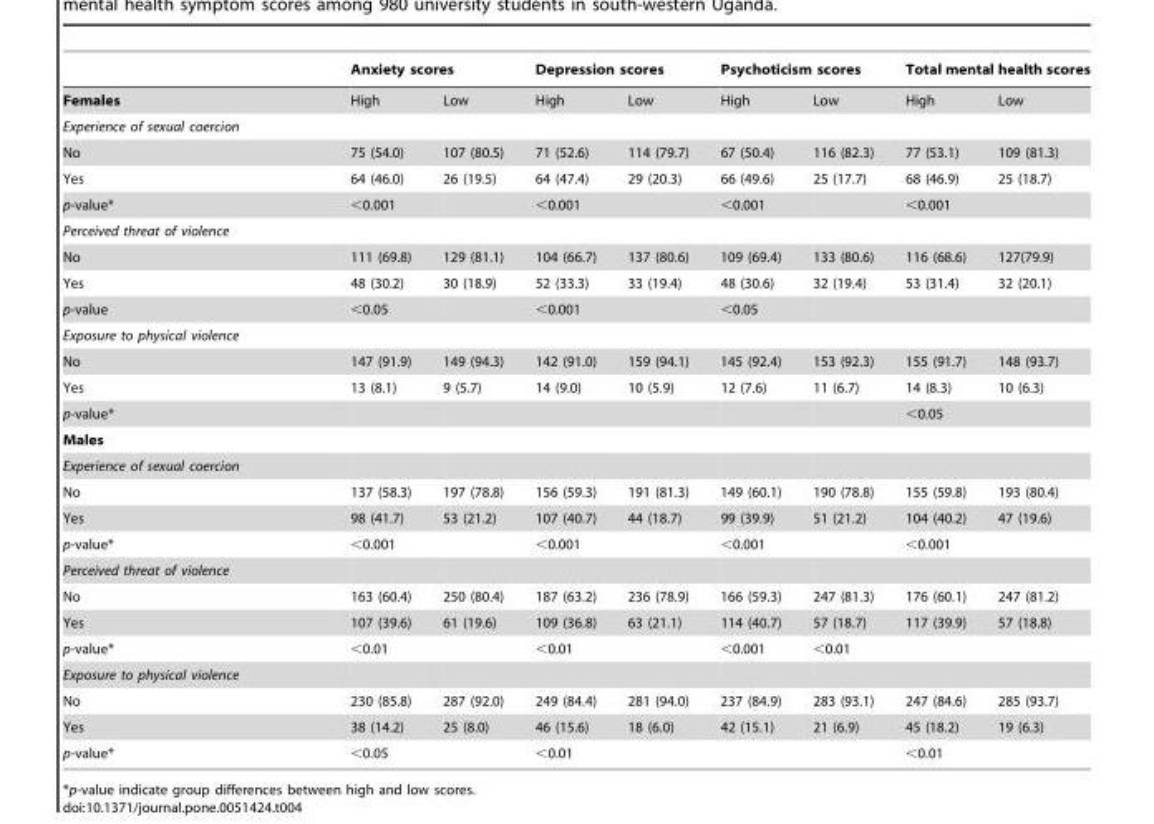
<table><thead><tr><td rowspan="2">Females</td><td colspan="2">Anxiety scores</td><td colspan="2">Depression scores</td><td colspan="2">Psychoticism scores</td><td colspan="2">Total mental health scores</td></tr><tr><td>High</td><td>Low</td><td>High</td><td>Low</td><td>High</td><td>Low</td><td>High</td><td>Low</td></tr></thead><tbody><tr><td colspan="9">Experience of sexual coercion</td></tr><tr><td>No</td><td>75 (54.0)</td><td>107 (80.5)</td><td>71 (52.6)</td><td>114 (79.7)</td><td>67 (50.4)</td><td>116 (82.3)</td><td>77 (53.1)</td><td>109 (81.3)</td></tr><tr><td>Yes</td><td>64 (46.0)</td><td>26 (19.5)</td><td>64 (47.4)</td><td>29 (20.3)</td><td>66 (49.6)</td><td>25 (17.7)</td><td>68 (46.9)</td><td>25 (18.7)</td></tr><tr><td>p-value*</td><td>&lt;0.001</td><td></td><td>&lt;0.001</td><td></td><td>&lt;0.001</td><td></td><td>&lt;0.001</td><td></td></tr><tr><td colspan="9">Perceived threat of violence</td></tr><tr><td>No</td><td>111 (69.8)</td><td>129 (81.1)</td><td>104 (66.7)</td><td>137 (80.6)</td><td>109 (69.4)</td><td>133 (80.6)</td><td>116 (68.6)</td><td>127(79.9)</td></tr><tr><td>Yes</td><td>48 (30.2)</td><td>30 (18.9)</td><td>52 (33.3)</td><td>33 (19.4)</td><td>48 (30.6)</td><td>32 (19.4)</td><td>53 (31.4)</td><td>32 (20.1)</td></tr><tr><td>p-value</td><td>&lt;0.05</td><td></td><td>&lt;0.001</td><td></td><td>&lt;0.05</td><td></td><td></td><td></td></tr><tr><td colspan="9">Exposure to physical violence</td></tr><tr><td>No</td><td>147 (91.9)</td><td>149 (94.3)</td><td>142 (91.0)</td><td>159 (94.1)</td><td>145 (92.4)</td><td>153 (92.3)</td><td>155 (91.7)</td><td>148 (93.7)</td></tr><tr><td>Yes</td><td>13 (8.1)</td><td>9 (5.7)</td><td>14 (9.0)</td><td>10 (5.9)</td><td>12 (7.6)</td><td>11 (6.7)</td><td>14 (8.3)</td><td>10 (6.3)</td></tr><tr><td>p-value*</td><td></td><td></td><td></td><td></td><td></td><td></td><td>&lt;0.05</td><td></td></tr><tr><td colspan="9">Males</td></tr><tr><td colspan="9">Experience of sexual coercion</td></tr><tr><td>No</td><td>137 (58.3)</td><td>197 (78.8)</td><td>156 (59.3)</td><td>191 (81.3)</td><td>149 (60.1)</td><td>190 (78.8)</td><td>155 (59.8)</td><td>193 (80.4)</td></tr><tr><td>Yes</td><td>98 (41.7)</td><td>53 (21.2)</td><td>107 (40.7)</td><td>44 (18.7)</td><td>99 (39.9)</td><td>51 (21.2)</td><td>104 (40.2)</td><td>47 (19.6)</td></tr><tr><td>p-value*</td><td>&lt;0.001</td><td></td><td>&lt;0.001</td><td></td><td>&lt;0.001</td><td></td><td>&lt;0.001</td><td></td></tr><tr><td colspan="9">Perceived threat of violence</td></tr><tr><td>No</td><td>163 (60.4)</td><td>250 (80.4)</td><td>187 (63.2)</td><td>236 (78.9)</td><td>166 (59.3)</td><td>247 (81.3)</td><td>176 (60.1)</td><td>247 (81.2)</td></tr><tr><td>Yes</td><td>107 (39.6)</td><td>61 (19.6)</td><td>109 (36.8)</td><td>63 (21.1)</td><td>114 (40.7)</td><td>57 (18.7)</td><td>117 (39.9)</td><td>57 (18.8)</td></tr><tr><td>p-value*</td><td>&lt;0.01</td><td></td><td>&lt;0.01</td><td></td><td>&lt;0.001</td><td>&lt;0.01</td><td></td><td></td></tr><tr><td colspan="9">Exposure to physical violence</td></tr><tr><td>No</td><td>230 (85.8)</td><td>287 (92.0)</td><td>249 (84.4)</td><td>281 (94.0)</td><td>237 (84.9)</td><td>283 (93.1)</td><td>247 (84.6)</td><td>285 (93.7)</td></tr><tr><td>Yes</td><td>38 (14.2)</td><td>25 (8.0)</td><td>46 (15.6)</td><td>18 (6.0)</td><td>42 (15.1)</td><td>21 (6.9)</td><td>45 (18.2)</td><td>19 (6.3)</td></tr><tr><td>p-value*</td><td>&lt;0.05</td><td></td><td>&lt;0.01</td><td></td><td></td><td></td><td>&lt;0.01</td><td></td></tr></tbody></table>